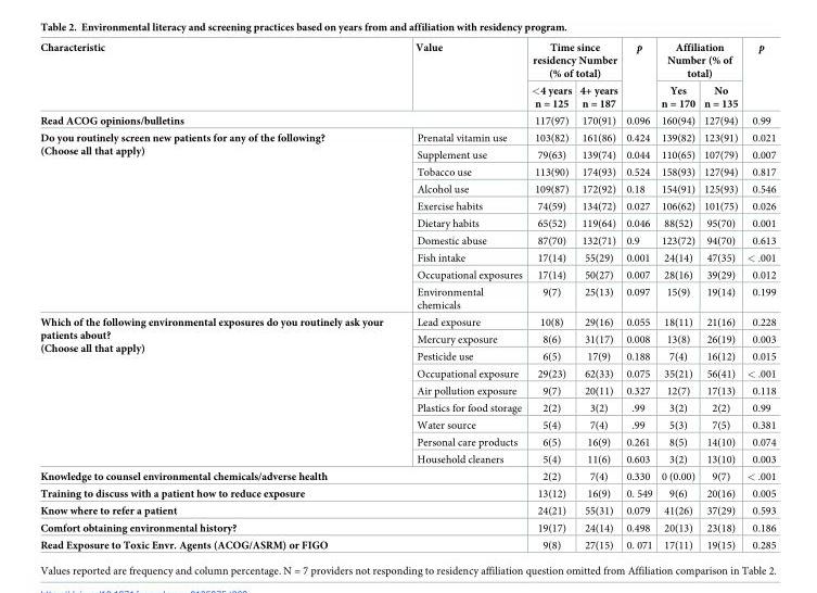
<table><thead><tr><td rowspan="2">Characteristic</td><td rowspan="2">Value</td><td colspan="2">Time since residency Number (% of total)</td><td rowspan="2">p</td><td colspan="2">Affiliation Number (% of total)</td><td rowspan="2">p</td></tr><tr><td>&lt;4 years n = 125</td><td>4+ years n = 187</td><td>Yes n = 170</td><td>No n = 135</td></tr></thead><tbody><tr><td colspan="2">Read ACOG opinions/bulletins</td><td>117(97)</td><td>170(91)</td><td>0.096</td><td>160(94)</td><td>127(94)</td><td>0.99</td></tr><tr><td rowspan="10">Do you routinely screen new patients for any of the following? (Choose all that apply)</td><td>Prenatal vitamin use</td><td>103(82)</td><td>161(86)</td><td>0.424</td><td>139(82)</td><td>123(91)</td><td>0.021</td></tr><tr><td>Supplement use</td><td>79(63)</td><td>139(74)</td><td>0.044</td><td>110(65)</td><td>107(79)</td><td>0.007</td></tr><tr><td>Tobacco use</td><td>113(90)</td><td>174(93)</td><td>0.524</td><td>158(93)</td><td>127(94)</td><td>0.817</td></tr><tr><td>Alcohol use</td><td>109(87)</td><td>172(92)</td><td>0.18</td><td>154(91)</td><td>125(93)</td><td>0.546</td></tr><tr><td>Exercise habits</td><td>74(59)</td><td>134(72)</td><td>0.027</td><td>106(62)</td><td>101(75)</td><td>0.026</td></tr><tr><td>Dietary habits</td><td>65(52)</td><td>119(64)</td><td>0.046</td><td>88(52)</td><td>95(70)</td><td>0.001</td></tr><tr><td>Domestic abuse</td><td>87(70)</td><td>132(71)</td><td>0.9</td><td>123(72)</td><td>94(70)</td><td>0.613</td></tr><tr><td>Fish intake</td><td>17(14)</td><td>55(29)</td><td>0.001</td><td>24(14)</td><td>47(35)</td><td>&lt; .001</td></tr><tr><td>Occupational exposures</td><td>17(14)</td><td>50(27)</td><td>0.007</td><td>28(16)</td><td>39(29)</td><td>0.012</td></tr><tr><td>Environmental chemicals</td><td>9(7)</td><td>25(13)</td><td>0.097</td><td>15(9)</td><td>19(14)</td><td>0.199</td></tr><tr><td rowspan="9">Which of the following environmental exposures do you routinely ask your patients about? (Choose all that apply)</td><td>Lead exposure</td><td>10(8)</td><td>29(16)</td><td>0.055</td><td>18(11)</td><td>21(16)</td><td>0.228</td></tr><tr><td>Mercury exposure</td><td>8(6)</td><td>31(17)</td><td>0.008</td><td>13(8)</td><td>26(19)</td><td>0.003</td></tr><tr><td>Pesticide use</td><td>6(5)</td><td>17(9)</td><td>0.188</td><td>7(4)</td><td>16(12)</td><td>0.015</td></tr><tr><td>Occupational exposure</td><td>29(23)</td><td>62(33)</td><td>0.075</td><td>35(21)</td><td>56(41)</td><td>&lt; .001</td></tr><tr><td>Air pollution exposure</td><td>9(7)</td><td>20(11)</td><td>0.327</td><td>12(7)</td><td>17(13)</td><td>0.118</td></tr><tr><td>Plastics for food storage</td><td>2(2)</td><td>3(2)</td><td>.99</td><td>3(2)</td><td>2(2)</td><td>0.99</td></tr><tr><td>Water source</td><td>5(4)</td><td>7(4)</td><td>.99</td><td>5(3)</td><td>7(5)</td><td>0.381</td></tr><tr><td>Personal care products</td><td>6(5)</td><td>16(9)</td><td>0.261</td><td>8(5)</td><td>14(10)</td><td>0.074</td></tr><tr><td>Household cleaners</td><td>5(4)</td><td>11(6)</td><td>0.603</td><td>3(2)</td><td>13(10)</td><td>0.003</td></tr><tr><td colspan="2">Knowledge to counsel environmental chemicals/adverse health</td><td>2(2)</td><td>7(4)</td><td>0.330</td><td>0 (0.00)</td><td>9(7)</td><td>&lt; .001</td></tr><tr><td colspan="2">Training to discuss with a patient how to reduce exposure</td><td>13(12)</td><td>16(9)</td><td>0. 549</td><td>9(6)</td><td>20(16)</td><td>0.005</td></tr><tr><td colspan="2">Know where to refer a patient</td><td>24(21)</td><td>55(31)</td><td>0.079</td><td>41(26)</td><td>37(29)</td><td>0.593</td></tr><tr><td colspan="2">Comfort obtaining environmental history?</td><td>19(17)</td><td>24(14)</td><td>0.498</td><td>20(13)</td><td>23(18)</td><td>0.186</td></tr><tr><td colspan="2">Read Exposure to Toxic Envr. Agents (ACOG/ASRM) or FIGO</td><td>9(8)</td><td>27(15)</td><td>0. 071</td><td>17(11)</td><td>19(15)</td><td>0.285</td></tr></tbody></table>